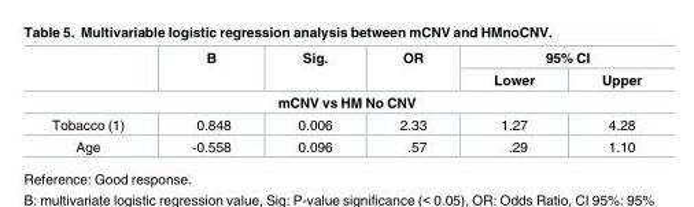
<table><thead><tr><td rowspan="2"></td><td rowspan="2">B</td><td rowspan="2">Sig.</td><td rowspan="2">OR</td><td colspan="2">95% CI</td></tr><tr><td>Lower</td><td>Upper</td></tr><tr><td colspan="6">mCNV vs HM No CNV</td></tr></thead><tbody><tr><td>Tobacco (1)</td><td>0.848</td><td>0.006</td><td>2.33</td><td>1.27</td><td>4.28</td></tr><tr><td>Age</td><td>-0.558</td><td>0.096</td><td>.57</td><td>.29</td><td>1.10</td></tr></tbody></table>